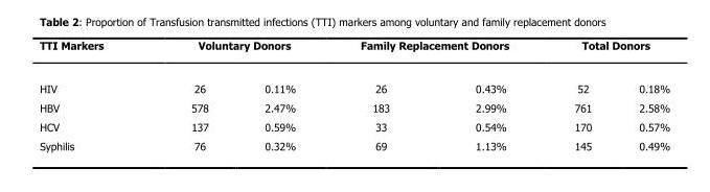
<table><thead><tr><td rowspan="2">TTI Markers HIV</td><td colspan="2">Voluntary Donors</td><td colspan="2">Family Replacement Donors</td><td colspan="2">Total Donors</td></tr><tr><td>26</td><td>0.11%</td><td>26</td><td>0.43%</td><td>52</td><td>0.18%</td></tr></thead><tbody><tr><td>HBV</td><td>578</td><td>2.47%</td><td>183</td><td>2.99%</td><td>761</td><td>2.58%</td></tr><tr><td>HCV</td><td>137</td><td>0.59%</td><td>33</td><td>0.54%</td><td>170</td><td>0.57%</td></tr><tr><td>Syphilis</td><td>76</td><td>0.32%</td><td>69</td><td>1.13%</td><td>145</td><td>0.49%</td></tr></tbody></table>